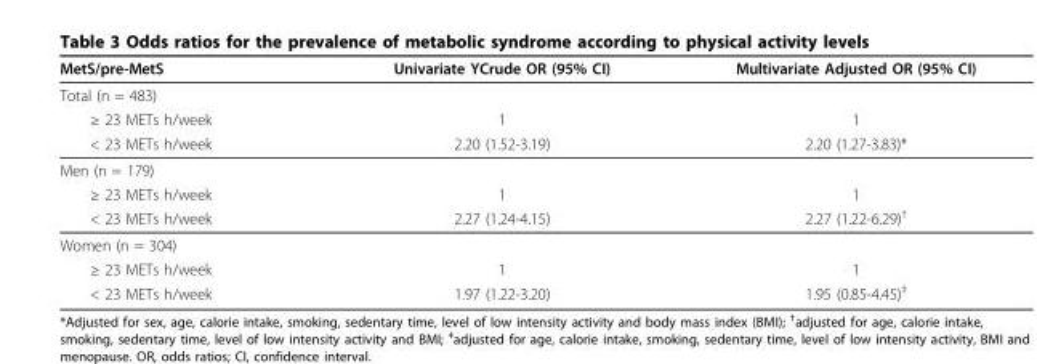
<table><thead><tr><td>MetS/pre-MetS</td><td>Univariate YCrude OR (95% CI)</td><td>Multivariate Adjusted OR (95% CI)</td></tr></thead><tbody><tr><td colspan="3">Total (n = 483)</td></tr><tr><td>≥ 23 METs h/week</td><td>1</td><td>1</td></tr><tr><td>&lt; 23 METs h/week</td><td>2.20 (1.52-3.19)</td><td>2.20 (1.27-3.83)*</td></tr><tr><td colspan="3">Men (n = 179)</td></tr><tr><td>≥ 23 METs h/week</td><td>1</td><td>1</td></tr><tr><td>&lt; 23 METs h/week</td><td>2.27 (1.24-4.15)</td><td>2.27 (1.22-6.29)<sup>†</sup></td></tr><tr><td colspan="3">Women (n = 304)</td></tr><tr><td>≥ 23 METs h/week</td><td>1</td><td>1</td></tr><tr><td>&lt; 23 METs h/week</td><td>1.97 (1.22-3.20)</td><td>1.95 (0.85-4.45)<sup>‡</sup></td></tr></tbody></table>